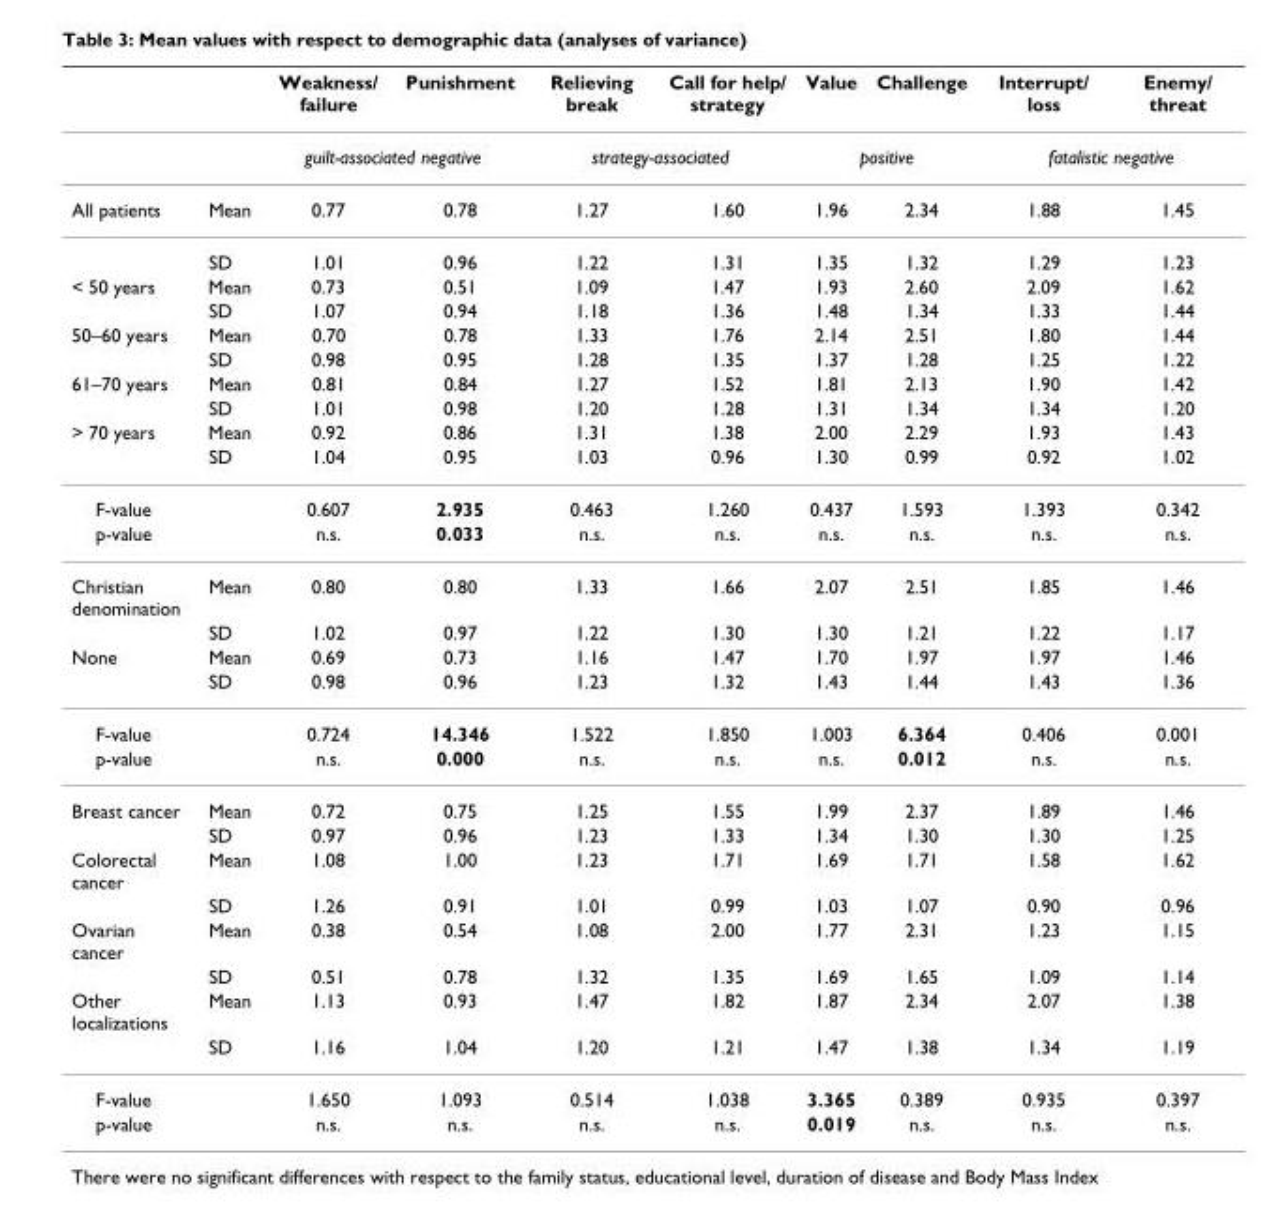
<table><thead><tr><td></td><td></td><td>Weakness/ failure</td><td>Punishment</td><td>Relieving break</td><td>Call for help/ strategy</td><td>Value</td><td>Challenge</td><td>Interrupt/ loss</td><td>Enemy/ threat</td></tr></thead><tbody><tr><td></td><td></td><td colspan="2">guilt-associated negative</td><td colspan="2">strategy-associated</td><td colspan="2">positive</td><td colspan="2">fatalistic negative</td></tr><tr><td rowspan="2">All patients</td><td>Mean</td><td>0.77</td><td>0.78</td><td>1.27</td><td>1.60</td><td>1.96</td><td>2.34</td><td>1.88</td><td>1.45</td></tr><tr><td>SD</td><td>1.01</td><td>0.96</td><td>1.22</td><td>1.31</td><td>1.35</td><td>1.32</td><td>1.29</td><td>1.23</td></tr><tr><td rowspan="2">&lt; 50 years</td><td>Mean</td><td>0.73</td><td>0.51</td><td>1.09</td><td>1.47</td><td>1.93</td><td>2.60</td><td>2.09</td><td>1.62</td></tr><tr><td>SD</td><td>1.07</td><td>0.94</td><td>1.18</td><td>1.36</td><td>1.48</td><td>1.34</td><td>1.33</td><td>1.44</td></tr><tr><td rowspan="2">50–60 years</td><td>Mean</td><td>0.70</td><td>0.78</td><td>1.33</td><td>1.76</td><td>2.14</td><td>2.51</td><td>1.80</td><td>1.44</td></tr><tr><td>SD</td><td>0.98</td><td>0.95</td><td>1.28</td><td>1.35</td><td>1.37</td><td>1.28</td><td>1.25</td><td>1.22</td></tr><tr><td rowspan="2">61–70 years</td><td>Mean</td><td>0.81</td><td>0.84</td><td>1.27</td><td>1.52</td><td>1.81</td><td>2.13</td><td>1.90</td><td>1.42</td></tr><tr><td>SD</td><td>1.01</td><td>0.98</td><td>1.20</td><td>1.28</td><td>1.31</td><td>1.34</td><td>1.34</td><td>1.20</td></tr><tr><td rowspan="2">&gt; 70 years</td><td>Mean</td><td>0.92</td><td>0.86</td><td>1.31</td><td>1.38</td><td>2.00</td><td>2.29</td><td>1.93</td><td>1.43</td></tr><tr><td>SD</td><td>1.04</td><td>0.95</td><td>1.03</td><td>0.96</td><td>1.30</td><td>0.99</td><td>0.92</td><td>1.02</td></tr><tr><td>F-value</td><td></td><td>0.607</td><td>2.935</td><td>0.463</td><td>1.260</td><td>0.437</td><td>1.593</td><td>1.393</td><td>0.342</td></tr><tr><td>p-value</td><td></td><td>n.s.</td><td>0.033</td><td>n.s.</td><td>n.s.</td><td>n.s.</td><td>n.s.</td><td>n.s.</td><td>n.s.</td></tr><tr><td rowspan="2">Christian denomination</td><td>Mean</td><td>0.80</td><td>0.80</td><td>1.33</td><td>1.66</td><td>2.07</td><td>2.51</td><td>1.85</td><td>1.46</td></tr><tr><td>SD</td><td>1.02</td><td>0.97</td><td>1.22</td><td>1.30</td><td>1.30</td><td>1.21</td><td>1.22</td><td>1.17</td></tr><tr><td rowspan="2">None</td><td>Mean</td><td>0.69</td><td>0.73</td><td>1.16</td><td>1.47</td><td>1.70</td><td>1.97</td><td>1.97</td><td>1.46</td></tr><tr><td>SD</td><td>0.98</td><td>0.96</td><td>1.23</td><td>1.32</td><td>1.43</td><td>1.44</td><td>1.43</td><td>1.36</td></tr><tr><td>F-value</td><td></td><td>0.724</td><td>14.346</td><td>1.522</td><td>1.850</td><td>1.003</td><td>6.364</td><td>0.406</td><td>0.001</td></tr><tr><td>p-value</td><td></td><td>n.s.</td><td>0.000</td><td>n.s.</td><td>n.s.</td><td>n.s.</td><td>0.012</td><td>n.s.</td><td>n.s.</td></tr><tr><td rowspan="2">Breast cancer</td><td>Mean</td><td>0.72</td><td>0.75</td><td>1.25</td><td>1.55</td><td>1.99</td><td>2.37</td><td>1.89</td><td>1.46</td></tr><tr><td>SD</td><td>0.97</td><td>0.96</td><td>1.23</td><td>1.33</td><td>1.34</td><td>1.30</td><td>1.30</td><td>1.25</td></tr><tr><td rowspan="2">Colorectal cancer</td><td>Mean</td><td>1.08</td><td>1.00</td><td>1.23</td><td>1.71</td><td>1.69</td><td>1.71</td><td>1.58</td><td>1.62</td></tr><tr><td>SD</td><td>1.26</td><td>0.91</td><td>1.01</td><td>0.99</td><td>1.03</td><td>1.07</td><td>0.90</td><td>0.96</td></tr><tr><td rowspan="2">Ovarian cancer</td><td>Mean</td><td>0.38</td><td>0.54</td><td>1.08</td><td>2.00</td><td>1.77</td><td>2.31</td><td>1.23</td><td>1.15</td></tr><tr><td>SD</td><td>0.51</td><td>0.78</td><td>1.32</td><td>1.35</td><td>1.69</td><td>1.65</td><td>1.09</td><td>1.14</td></tr><tr><td rowspan="2">Other localizations</td><td>Mean</td><td>1.13</td><td>0.93</td><td>1.47</td><td>1.82</td><td>1.87</td><td>2.34</td><td>2.07</td><td>1.38</td></tr><tr><td>SD</td><td>1.16</td><td>1.04</td><td>1.20</td><td>1.21</td><td>1.47</td><td>1.38</td><td>1.34</td><td>1.19</td></tr><tr><td>F-value</td><td></td><td>1.650</td><td>1.093</td><td>0.514</td><td>1.038</td><td>3.365</td><td>0.389</td><td>0.935</td><td>0.397</td></tr><tr><td>p-value</td><td></td><td>n.s.</td><td>n.s.</td><td>n.s.</td><td>n.s.</td><td>0.019</td><td>n.s.</td><td>n.s.</td><td>n.s.</td></tr></tbody></table>